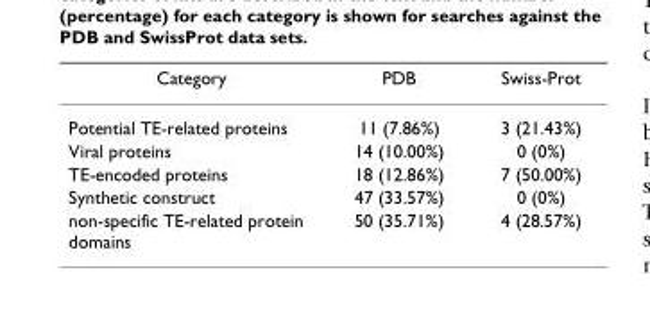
<table><thead><tr><td>Category</td><td>PDB</td><td>Swiss-Prot</td></tr></thead><tbody><tr><td>Potential TE-related proteins</td><td>11 (7.86%)</td><td>3 (21.43%)</td></tr><tr><td>Viral proteins</td><td>14 (10.00%)</td><td>0 (0%)</td></tr><tr><td>TE-encoded proteins</td><td>18 (12.86%)</td><td>7 (50.00%)</td></tr><tr><td>Synthetic construct</td><td>47 (33.57%)</td><td>0 (0%)</td></tr><tr><td>non-specific TE-related protein domains</td><td>50 (35.71%)</td><td>4 (28.57%)</td></tr></tbody></table>